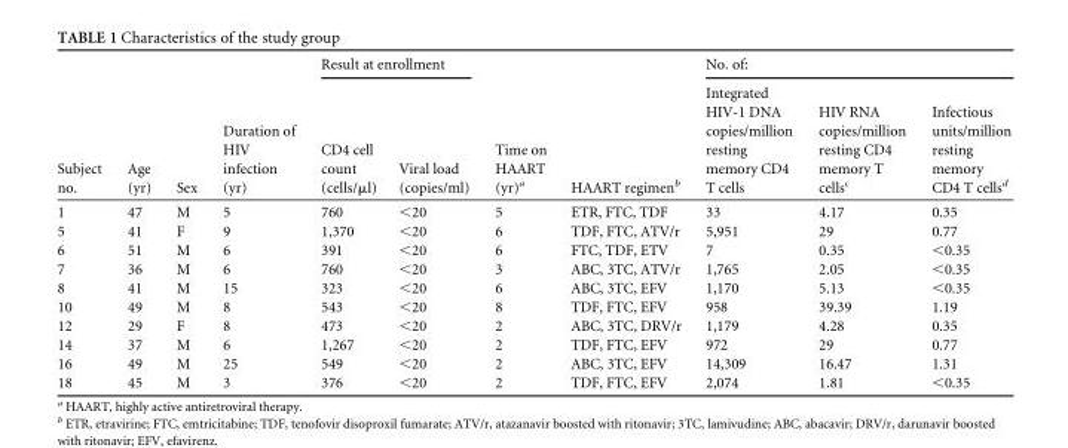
<table><thead><tr><td rowspan="2">Subject no.</td><td rowspan="2">Age (yr)</td><td rowspan="2">Sex</td><td rowspan="2">Duration of HIV infection (yr)</td><td colspan="2">Result at enrollment</td><td rowspan="2">Time on HAART (yr)<sup>a</sup></td><td rowspan="2">HAART regimen<sup>b</sup></td><td colspan="3">No. of:</td></tr><tr><td>CD4 cell count (cells/μl)</td><td>Viral load (copies/ml)</td><td>Integrated HIV-1 DNA copies/million resting memory CD4 T cells</td><td>HIV RNA copies/million resting CD4 memory T cells<sup>c</sup></td><td>Infectious units/million resting memory CD4 T cells<sup>d</sup></td></tr></thead><tbody><tr><td>1</td><td>47</td><td>M</td><td>5</td><td>760</td><td>&lt;20</td><td>5</td><td>ETR, FTC, TDF</td><td>33</td><td>4.17</td><td>0.35</td></tr><tr><td>5</td><td>41</td><td>F</td><td>9</td><td>1,370</td><td>&lt;20</td><td>6</td><td>TDF, FTC, ATV/r</td><td>5,951</td><td>29</td><td>0.77</td></tr><tr><td>6</td><td>51</td><td>M</td><td>6</td><td>391</td><td>&lt;20</td><td>6</td><td>FTC, TDF, ETV</td><td>7</td><td>0.35</td><td>&lt;0.35</td></tr><tr><td>7</td><td>36</td><td>M</td><td>6</td><td>760</td><td>&lt;20</td><td>3</td><td>ABC, 3TC, ATV/r</td><td>1,765</td><td>2.05</td><td>&lt;0.35</td></tr><tr><td>8</td><td>41</td><td>M</td><td>15</td><td>323</td><td>&lt;20</td><td>6</td><td>ABC, 3TC, EFV</td><td>1,170</td><td>5.13</td><td>&lt;0.35</td></tr><tr><td>10</td><td>49</td><td>M</td><td>8</td><td>543</td><td>&lt;20</td><td>8</td><td>TDF, FTC, EFV</td><td>958</td><td>39.39</td><td>1.19</td></tr><tr><td>12</td><td>29</td><td>F</td><td>8</td><td>473</td><td>&lt;20</td><td>2</td><td>ABC, 3TC, DRV/r</td><td>1,179</td><td>4.28</td><td>0.35</td></tr><tr><td>14</td><td>37</td><td>M</td><td>6</td><td>1,267</td><td>&lt;20</td><td>2</td><td>TDF, FTC, EFV</td><td>972</td><td>29</td><td>0.77</td></tr><tr><td>16</td><td>49</td><td>M</td><td>25</td><td>549</td><td>&lt;20</td><td>2</td><td>ABC, 3TC, EFV</td><td>14,309</td><td>16.47</td><td>1.31</td></tr><tr><td>18</td><td>45</td><td>M</td><td>3</td><td>376</td><td>&lt;20</td><td>2</td><td>TDF, FTC, EFV</td><td>2,074</td><td>1.81</td><td>&lt;0.35</td></tr></tbody></table>